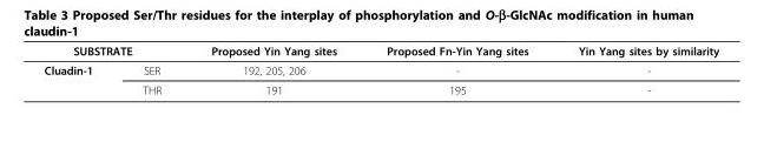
<table><thead><tr><td colspan="2">SUBSTRATE</td><td rowspan="2">Proposed Yin Yang sites 192, 205, 206</td><td rowspan="2">Proposed Fn-Yin Yang sites -</td><td rowspan="2">Yin Yang sites by similarity -</td></tr><tr><td>Cluadin-1</td><td>SER</td></tr></thead><tbody><tr><td></td><td>THR</td><td>191</td><td>195</td><td>-</td></tr></tbody></table>